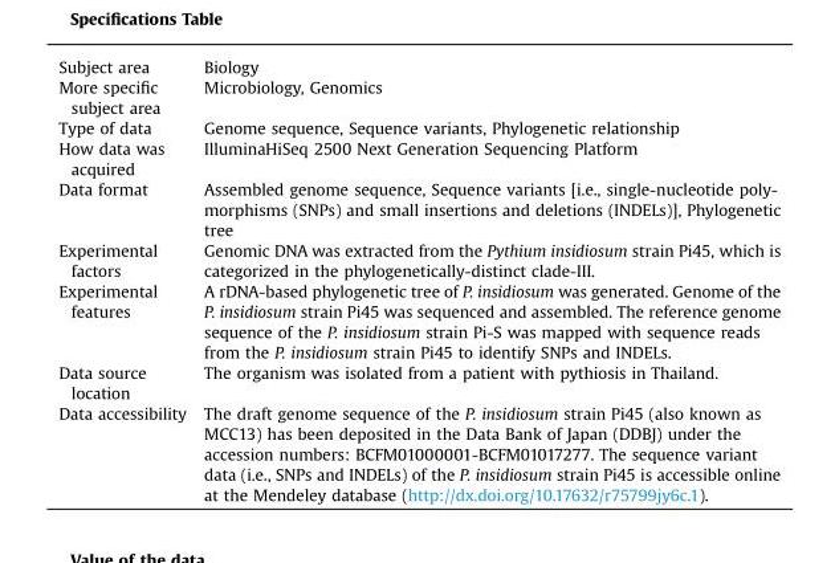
<table><tbody><tr><td>Subject area</td><td>Biology</td></tr><tr><td>More specific subject area</td><td>Microbiology, Genomics</td></tr><tr><td>Type of data</td><td>Genome sequence, Sequence variants, Phylogenetic relationship</td></tr><tr><td>How data was acquired</td><td>IlluminaHiSeq 2500 Next Generation Sequencing Platform</td></tr><tr><td>Data format</td><td>Assembled genome sequence, Sequence variants [i.e., single-nucleotide poly- morphisms (SNPs) and small insertions and deletions (INDELs)], Phylogenetic tree</td></tr><tr><td>Experimental factors</td><td>Genomic DNA was extracted from the Pythium insidiosum strain Pi45, which is categorized in the phylogenetically-distinct clade-III.</td></tr><tr><td>Experimental features</td><td>A rDNA-based phylogenetic tree of P. insidiosum was generated. Genome of the P. insidiosum strain Pi45 was sequenced and assembled. The reference genome sequence of the P. insidiosum strain Pi-S was mapped with sequence reads from the P. insidiosum strain Pi45 to identify SNPs and INDELs.</td></tr><tr><td>Data source location</td><td>The organism was isolated from a patient with pythiosis in Thailand.</td></tr><tr><td>Data accessibility</td><td>The draft genome sequence of the P. insidiosum strain Pi45 (also known as MCC13) has been deposited in the Data Bank of Japan (DDBJ) under the accession numbers: BCFM01000001-BCFM01017277. The sequence variant data (i.e., SNPs and INDELs) of the P. insidiosum strain Pi45 is accessible online at the Mendeley database (http://dx.doi.org/10.17632/r75799jy6c.1).</td></tr></tbody></table>